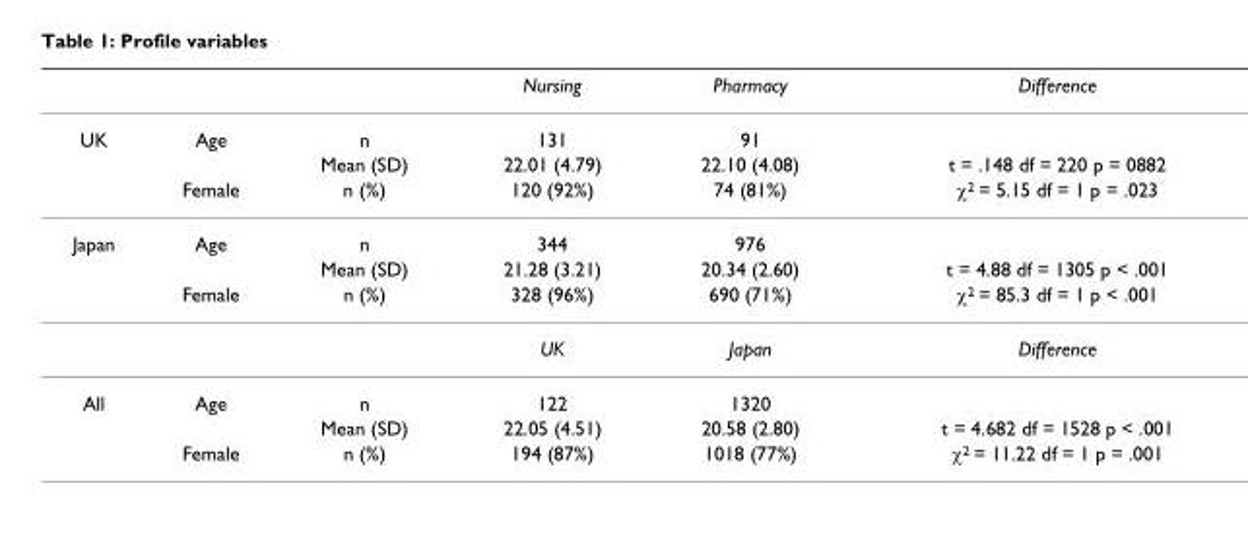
<table><thead><tr><td></td><td></td><td></td><td>Nursing</td><td>Pharmacy</td><td>Difference</td></tr></thead><tbody><tr><td rowspan="3">UK</td><td>Age</td><td>n</td><td>131</td><td>91</td><td></td></tr><tr><td></td><td>Mean (SD)</td><td>22.01 (4.79)</td><td>22.10 (4.08)</td><td>t = .148 df = 220 p = 0882</td></tr><tr><td>Female</td><td>n (%)</td><td>120 (92%)</td><td>74 (81%)</td><td>χ<sup>2</sup> = 5.15 df = 1 p = .023</td></tr><tr><td rowspan="4">Japan</td><td>Age</td><td>n</td><td>344</td><td>976</td><td></td></tr><tr><td></td><td>Mean (SD)</td><td>21.28 (3.21)</td><td>20.34 (2.60)</td><td>t = 4.88 df = 1305 p &lt; .001</td></tr><tr><td>Female</td><td>n (%)</td><td>328 (96%)</td><td>690 (71%)</td><td>χ<sup>2</sup> = 85.3 df = 1 p &lt; .001</td></tr><tr><td></td><td></td><td>UK</td><td>Japan</td><td>Difference</td></tr><tr><td rowspan="3">All</td><td>Age</td><td>n</td><td>122</td><td>1320</td><td></td></tr><tr><td></td><td>Mean (SD)</td><td>22.05 (4.51)</td><td>20.58 (2.80)</td><td>t = 4.682 df = 1528 p &lt; .001</td></tr><tr><td>Female</td><td>n (%)</td><td>194 (87%)</td><td>1018 (77%)</td><td>χ<sup>2</sup> = 11.22 df = 1 p = .001</td></tr></tbody></table>